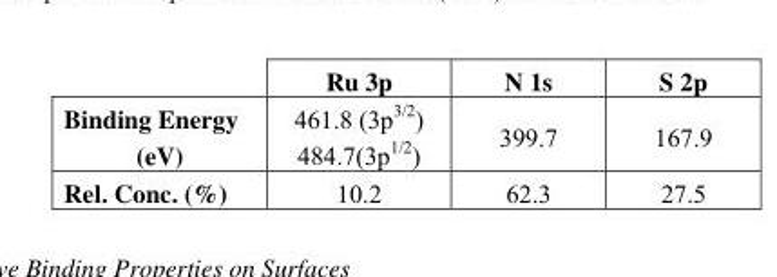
<table><thead><tr><td></td><td>Ru 3p</td><td>N 1s</td><td>S 2p</td></tr></thead><tbody><tr><td>Binding Energy (eV)</td><td>461.8 (3p<sup>3/2</sup>) 484.7(3p<sup>1/2</sup>)</td><td>399.7</td><td>167.9</td></tr><tr><td>Rel. Conc. (%)</td><td>10.2</td><td>62.3</td><td>27.5</td></tr></tbody></table>